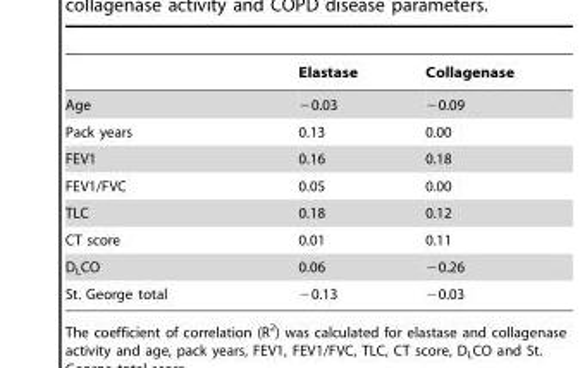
<table><thead><tr><td></td><td>Elastase</td><td>Collagenase</td></tr></thead><tbody><tr><td>Age</td><td>−0.03</td><td>−0.09</td></tr><tr><td>Pack years</td><td>0.13</td><td>0.00</td></tr><tr><td>FEV1</td><td>0.16</td><td>0.18</td></tr><tr><td>FEV1/FVC</td><td>0.05</td><td>0.00</td></tr><tr><td>TLC</td><td>0.18</td><td>0.12</td></tr><tr><td>CT score</td><td>0.01</td><td>0.11</td></tr><tr><td>D<sub>L</sub>CO</td><td>0.06</td><td>−0.26</td></tr><tr><td>St. George total</td><td>−0.13</td><td>−0.03</td></tr></tbody></table>